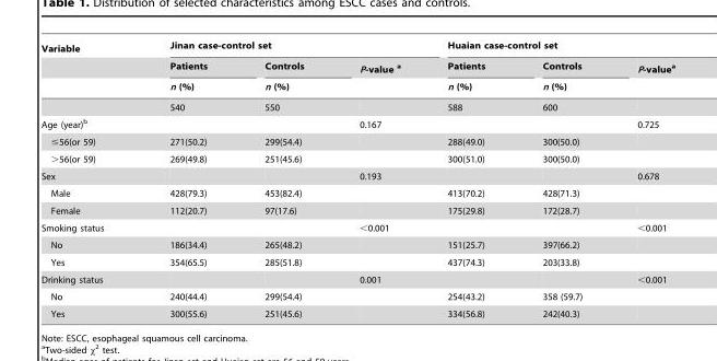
<table><thead><tr><td rowspan="3">Variable</td><td colspan="3">Jinan case-control set</td><td colspan="3">Huaian case-control set</td></tr><tr><td rowspan="2">Patients n (%)</td><td rowspan="2">Controls n (%)</td><td rowspan="2">P-value a</td><td rowspan="2">Patients n (%)</td><td rowspan="2">Controls n (%)</td><td rowspan="2">P-valuea</td></tr><tr></tr></thead><tbody><tr><td></td><td>540</td><td>550</td><td></td><td>588</td><td>600</td><td></td></tr><tr><td>Age (year)<sup>b</sup></td><td></td><td></td><td>0.167</td><td></td><td></td><td>0.725</td></tr><tr><td>≤56(or 59)</td><td>271(50.2)</td><td>299(54.4)</td><td></td><td>288(49.0)</td><td>300(50.0)</td><td></td></tr><tr><td>&gt;56(or 59)</td><td>269(49.8)</td><td>251(45.6)</td><td></td><td>300(51.0)</td><td>300(50.0)</td><td></td></tr><tr><td>Sex</td><td></td><td></td><td>0.193</td><td></td><td></td><td>0.678</td></tr><tr><td>Male</td><td>428(79.3)</td><td>453(82.4)</td><td></td><td>413(70.2)</td><td>428(71.3)</td><td></td></tr><tr><td>Female</td><td>112(20.7)</td><td>97(17.6)</td><td></td><td>175(29.8)</td><td>172(28.7)</td><td></td></tr><tr><td>Smoking status</td><td></td><td></td><td>&lt;0.001</td><td></td><td></td><td>&lt;0.001</td></tr><tr><td>No</td><td>186(34.4)</td><td>265(48.2)</td><td></td><td>151(25.7)</td><td>397(66.2)</td><td></td></tr><tr><td>Yes</td><td>354(65.5)</td><td>285(51.8)</td><td></td><td>437(74.3)</td><td>203(33.8)</td><td></td></tr><tr><td>Drinking status</td><td></td><td></td><td>0.001</td><td></td><td></td><td>&lt;0.001</td></tr><tr><td>No</td><td>240(44.4)</td><td>299(54.4)</td><td></td><td>254(43.2)</td><td>358 (59.7)</td><td></td></tr><tr><td>Yes</td><td>300(55.6)</td><td>251(45.6)</td><td></td><td>334(56.8)</td><td>242(40.3)</td><td></td></tr></tbody></table>